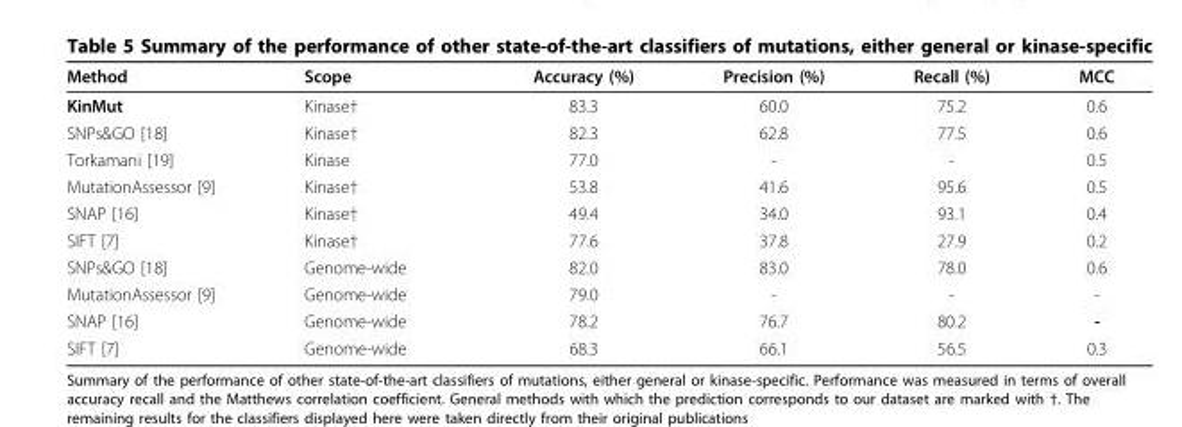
<table><thead><tr><td>Method</td><td>Scope</td><td>Accuracy (%)</td><td>Precision (%)</td><td>Recall (%)</td><td>MCC</td></tr></thead><tbody><tr><td>KinMut</td><td>Kinase†</td><td>83.3</td><td>60.0</td><td>75.2</td><td>0.6</td></tr><tr><td>SNPs&amp;GO [18]</td><td>Kinase†</td><td>82.3</td><td>62.8</td><td>77.5</td><td>0.6</td></tr><tr><td>Torkamani [19]</td><td>Kinase</td><td>77.0</td><td>-</td><td>-</td><td>0.5</td></tr><tr><td>MutationAssessor [9]</td><td>Kinase†</td><td>53.8</td><td>41.6</td><td>95.6</td><td>0.5</td></tr><tr><td>SNAP [16]</td><td>Kinase†</td><td>49.4</td><td>34.0</td><td>93.1</td><td>0.4</td></tr><tr><td>SIFT [7]</td><td>Kinase†</td><td>77.6</td><td>37.8</td><td>27.9</td><td>0.2</td></tr><tr><td>SNPs&amp;GO [18]</td><td>Genome-wide</td><td>82.0</td><td>83.0</td><td>78.0</td><td>0.6</td></tr><tr><td>MutationAssessor [9]</td><td>Genome-wide</td><td>79.0</td><td>-</td><td>-</td><td>-</td></tr><tr><td>SNAP [16]</td><td>Genome-wide</td><td>78.2</td><td>76.7</td><td>80.2</td><td>-</td></tr><tr><td>SIFT [7]</td><td>Genome-wide</td><td>68.3</td><td>66.1</td><td>56.5</td><td>0.3</td></tr></tbody></table>